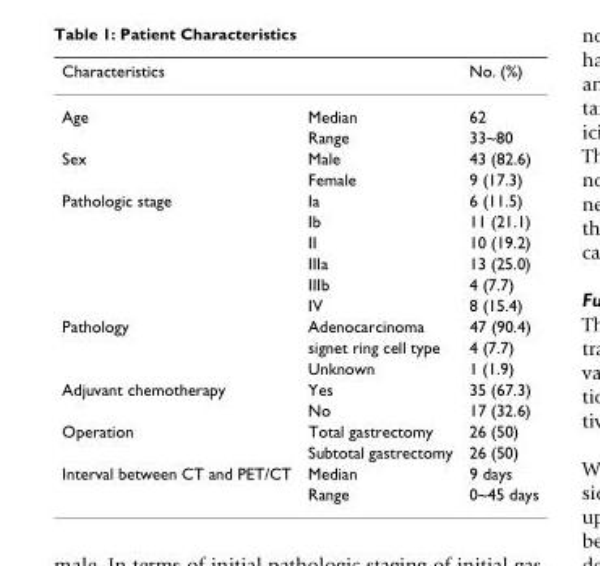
<table><thead><tr><td>Characteristics</td><td></td><td>No. (%)</td></tr></thead><tbody><tr><td rowspan="2">Age</td><td>Median</td><td>62</td></tr><tr><td>Range</td><td>33~80</td></tr><tr><td rowspan="2">Sex</td><td>Male</td><td>43 (82.6)</td></tr><tr><td>Female</td><td>9 (17.3)</td></tr><tr><td rowspan="6">Pathologic stage</td><td>Ia</td><td>6 (11.5)</td></tr><tr><td>Ib</td><td>11 (21.1)</td></tr><tr><td>II</td><td>10 (19.2)</td></tr><tr><td>IIIa</td><td>13 (25.0)</td></tr><tr><td>IIIb</td><td>4 (7.7)</td></tr><tr><td>IV</td><td>8 (15.4)</td></tr><tr><td rowspan="3">Pathology</td><td>Adenocarcinoma</td><td>47 (90.4)</td></tr><tr><td>signet ring cell type</td><td>4 (7.7)</td></tr><tr><td>Unknown</td><td>1 (1.9)</td></tr><tr><td rowspan="2">Adjuvant chemotherapy</td><td>Yes</td><td>35 (67.3)</td></tr><tr><td>No</td><td>17 (32.6)</td></tr><tr><td rowspan="2">Operation</td><td>Total gastrectomy</td><td>26 (50)</td></tr><tr><td>Subtotal gastrectomy</td><td>26 (50)</td></tr><tr><td rowspan="2">Interval between CT and PET/CT</td><td>Median</td><td>9 days</td></tr><tr><td>Range</td><td>0~45 days</td></tr></tbody></table>